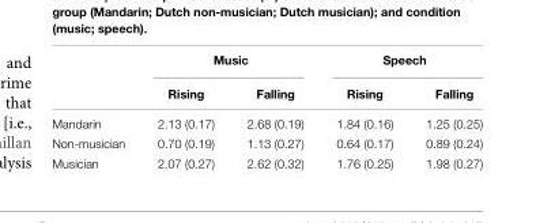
<table><thead><tr><td rowspan="2"></td><td colspan="2">Music</td><td colspan="2">Speech</td></tr><tr><td>Rising</td><td>Falling</td><td>Rising</td><td>Falling</td></tr></thead><tbody><tr><td>Mandarin</td><td>2.13 (0.17)</td><td>2.68 (0.19)</td><td>1.84 (0.16)</td><td>1.25 (0.25)</td></tr><tr><td>Non-musician</td><td>0.70 (0.19)</td><td>1.13 (0.27)</td><td>0.64 (0.17)</td><td>0.89 (0.24)</td></tr><tr><td>Musician</td><td>2.07 (0.27)</td><td>2.62 (0.32)</td><td>1.76 (0.25)</td><td>1.98 (0.27)</td></tr></tbody></table>